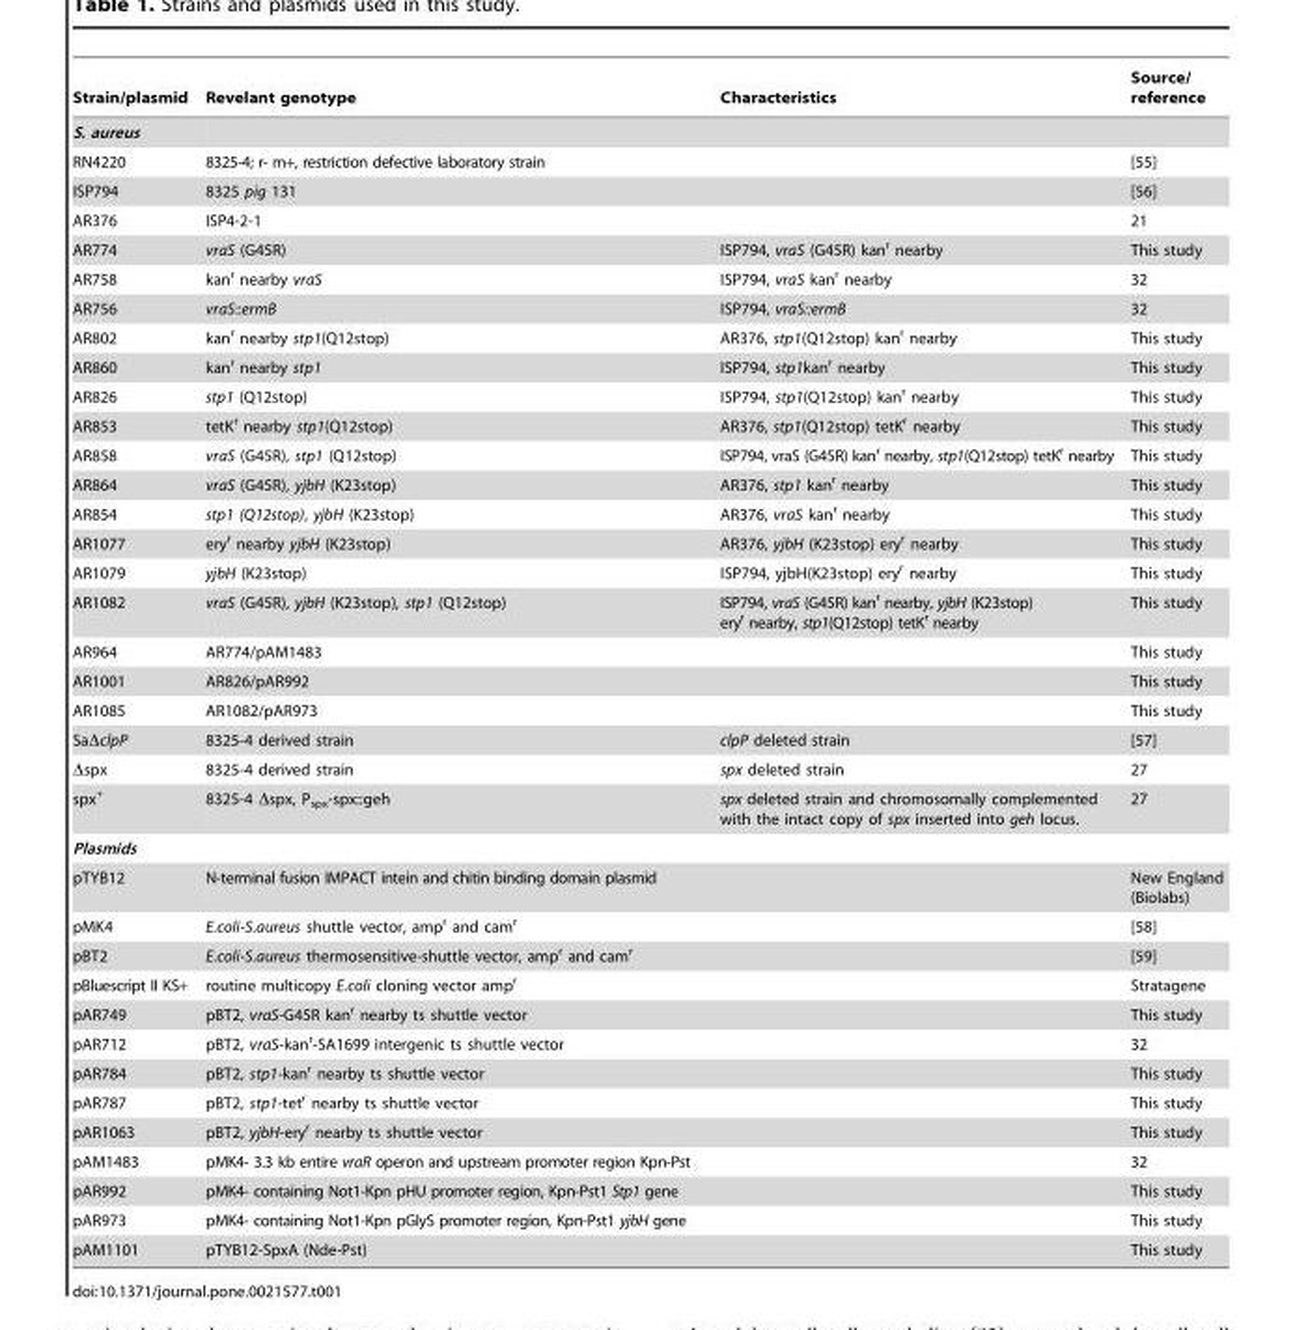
<table><thead><tr><td>Strain/plasmid</td><td>Revelant genotype</td><td>Characteristics</td><td>Source/ reference</td></tr></thead><tbody><tr><td colspan="4">S. aureus</td></tr><tr><td>RN4220</td><td>8325-4; r- m+, restriction defective laboratory strain</td><td></td><td>[55]</td></tr><tr><td>ISP794</td><td>8325 pig 131</td><td></td><td>[56]</td></tr><tr><td>AR376</td><td>ISP4-2-1</td><td></td><td>21</td></tr><tr><td>AR774</td><td>vraS (G45R)</td><td>ISP794, vraS (G45R) kan<sup>r</sup> nearby</td><td>This study</td></tr><tr><td>AR758</td><td>kan<sup>r</sup> nearby vraS</td><td>ISP794, vraS kan<sup>r</sup> nearby</td><td>32</td></tr><tr><td>AR756</td><td>vraS::ermB</td><td>ISP794, vraS::ermB</td><td>32</td></tr><tr><td>AR802</td><td>kan<sup>r</sup> nearby stp1(Q12stop)</td><td>AR376, stp1(Q12stop) kan<sup>r</sup> nearby</td><td>This study</td></tr><tr><td>AR860</td><td>kan<sup>r</sup> nearby stp1</td><td>ISP794, stp1kan<sup>r</sup> nearby</td><td>This study</td></tr><tr><td>AR826</td><td>stp1 (Q12stop)</td><td>ISP794, stp1(Q12stop) kan<sup>r</sup> nearby</td><td>This study</td></tr><tr><td>AR853</td><td>tetK<sup>r</sup> nearby stp1(Q12stop)</td><td>AR376, stp1(Q12stop) tetK<sup>r</sup> nearby</td><td>This study</td></tr><tr><td>AR858</td><td>vraS (G45R), stp1 (Q12stop)</td><td>ISP794, vraS (G45R) kan<sup>r</sup> nearby, stp1(Q12stop) tetK<sup>r</sup> nearby</td><td>This study</td></tr><tr><td>AR864</td><td>vraS (G45R), yjbH (K23stop)</td><td>AR376, stp1 kan<sup>r</sup> nearby</td><td>This study</td></tr><tr><td>AR854</td><td>stp1 (Q12stop), yjbH (K23stop)</td><td>AR376, vraS kan<sup>r</sup> nearby</td><td>This study</td></tr><tr><td>AR1077</td><td>ery<sup>r</sup> nearby yjbH (K23stop)</td><td>AR376, yjbH (K23stop) ery<sup>r</sup> nearby</td><td>This study</td></tr><tr><td>AR1079</td><td>yjbH (K23stop)</td><td>ISP794, yjbH(K23stop) ery<sup>r</sup> nearby</td><td>This study</td></tr><tr><td>AR1082</td><td>vraS (G45R), yjbH (K23stop), stp1 (Q12stop)</td><td>ISP794, vraS (G45R) kan<sup>r</sup> nearby, yjbH (K23stop) ery<sup>r</sup> nearby, stp1(Q12stop) tetK<sup>r</sup> nearby</td><td>This study</td></tr><tr><td>AR964</td><td>AR774/pAM1483</td><td></td><td>This study</td></tr><tr><td>AR1001</td><td>AR826/pAR992</td><td></td><td>This study</td></tr><tr><td>AR1085</td><td>AR1082/pAR973</td><td></td><td>This study</td></tr><tr><td>SaΔclpP</td><td>8325-4 derived strain</td><td>clpP deleted strain</td><td>[57]</td></tr><tr><td>Δspx</td><td>8325-4 derived strain</td><td>spx deleted strain</td><td>27</td></tr><tr><td>spx<sup>+</sup></td><td>8325-4 Δspx, P<sub>spx</sub>-spx::geh</td><td>spx deleted strain and chromosomally complemented with the intact copy of spx inserted into geh locus.</td><td>27</td></tr><tr><td colspan="4">Plasmids</td></tr><tr><td>pTYB12</td><td>N-terminal fusion IMPACT intein and chitin binding domain plasmid</td><td></td><td>New England (Biolabs)</td></tr><tr><td>pMK4</td><td>E.coli-S.aureus shuttle vector, amp<sup>r</sup> and cam<sup>r</sup></td><td></td><td>[58]</td></tr><tr><td>pBT2</td><td>E.coli-S.aureus thermosensitive-shuttle vector, amp<sup>r</sup> and cam<sup>r</sup></td><td></td><td>[59]</td></tr><tr><td>pBluescript II KS+</td><td>routine multicopy E.coli cloning vector amp<sup>r</sup></td><td></td><td>Stratagene</td></tr><tr><td>pAR749</td><td>pBT2, vraS-G45R kan<sup>r</sup> nearby ts shuttle vector</td><td></td><td>This study</td></tr><tr><td>pAR712</td><td>pBT2, vraS-kan<sup>r</sup>-SA1699 intergenic ts shuttle vector</td><td></td><td>32</td></tr><tr><td>pAR784</td><td>pBT2, stp1-kan<sup>r</sup> nearby ts shuttle vector</td><td></td><td>This study</td></tr><tr><td>pAR787</td><td>pBT2, stp1-tet<sup>r</sup> nearby ts shuttle vector</td><td></td><td>This study</td></tr><tr><td>pAR1063</td><td>pBT2, yjbH-ery<sup>r</sup> nearby ts shuttle vector</td><td></td><td>This study</td></tr><tr><td>pAM1483</td><td>pMK4- 3.3 kb entire vraR operon and upstream promoter region Kpn-Pst</td><td></td><td>32</td></tr><tr><td>pAR992</td><td>pMK4- containing Not1-Kpn pHU promoter region, Kpn-Pst1 Stp1 gene</td><td></td><td>This study</td></tr><tr><td>pAR973</td><td>pMK4- containing Not1-Kpn pGlyS promoter region, Kpn-Pst1 yjbH gene</td><td></td><td>This study</td></tr><tr><td>pAM1101</td><td>pTYB12-SpxA (Nde-Pst)</td><td></td><td>This study</td></tr></tbody></table>